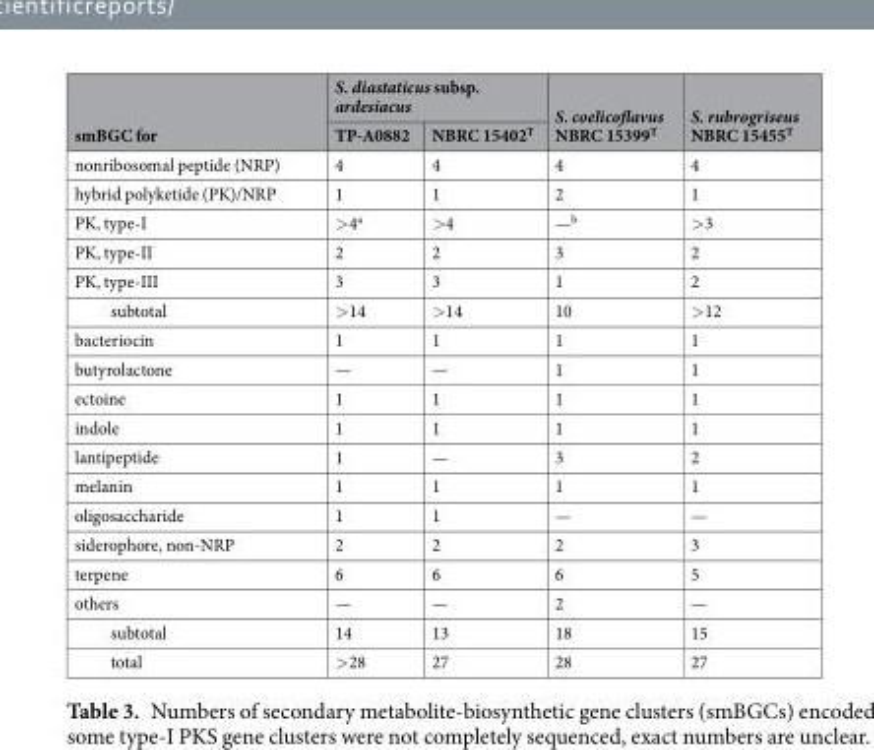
<table><thead><tr><td rowspan="2">smBGC for</td><td colspan="2">S. diastaticus subsp. ardesiacus</td><td rowspan="2">S. coelicoflavus NBRC 15399<sup>T</sup></td><td rowspan="2">S. rubrogriseus NBRC 15455<sup>T</sup></td></tr><tr><td>TP-A0882</td><td>NBRC 15402<sup>T</sup></td></tr></thead><tbody><tr><td>nonribosomal peptide (NRP)</td><td>4</td><td>4</td><td>4</td><td>4</td></tr><tr><td>hybrid polyketide (PK)/NRP</td><td>1</td><td>1</td><td>2</td><td>1</td></tr><tr><td>PK, type-I</td><td>&gt;4<sup>a</sup></td><td>&gt;4</td><td>—<sup>b</sup></td><td>&gt;3</td></tr><tr><td>PK, type-II</td><td>2</td><td>2</td><td>3</td><td>2</td></tr><tr><td>PK, type-III</td><td>3</td><td>3</td><td>1</td><td>2</td></tr><tr><td>subtotal</td><td>&gt;14</td><td>&gt;14</td><td>10</td><td>&gt;12</td></tr><tr><td>bacteriocin</td><td>1</td><td>1</td><td>1</td><td>1</td></tr><tr><td>butyrolactone</td><td>—</td><td>—</td><td>1</td><td>1</td></tr><tr><td>ectoine</td><td>1</td><td>1</td><td>1</td><td>1</td></tr><tr><td>indole</td><td>1</td><td>1</td><td>1</td><td>1</td></tr><tr><td>lantipeptide</td><td>1</td><td>—</td><td>3</td><td>2</td></tr><tr><td>melanin</td><td>1</td><td>1</td><td>1</td><td>1</td></tr><tr><td>oligosaccharide</td><td>1</td><td>1</td><td>—</td><td>—</td></tr><tr><td>siderophore, non-NRP</td><td>2</td><td>2</td><td>2</td><td>3</td></tr><tr><td>terpene</td><td>6</td><td>6</td><td>6</td><td>5</td></tr><tr><td>others</td><td>—</td><td>—</td><td>2</td><td>—</td></tr><tr><td>subtotal</td><td>14</td><td>13</td><td>18</td><td>15</td></tr><tr><td>total</td><td>&gt;28</td><td>27</td><td>28</td><td>27</td></tr></tbody></table>